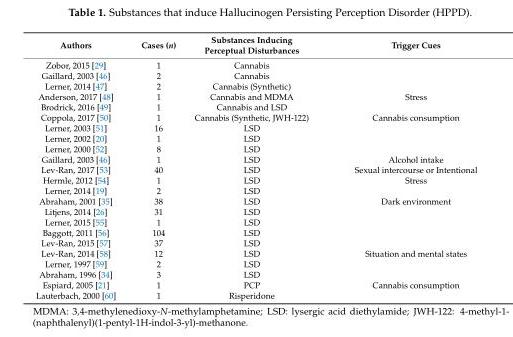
<table><thead><tr><td>Authors</td><td>Cases (n)</td><td>Substances Inducing Perceptual Disturbances</td><td>Trigger Cues</td></tr></thead><tbody><tr><td>Zobor, 2015 [29]</td><td>1</td><td>Cannabis</td><td></td></tr><tr><td>Gaillard, 2003 [46]</td><td>2</td><td>Cannabis</td><td></td></tr><tr><td>Lerner, 2014 [47]</td><td>2</td><td>Cannabis (Synthetic)</td><td></td></tr><tr><td>Anderson, 2017 [48]</td><td>1</td><td>Cannabis and MDMA</td><td>Stress</td></tr><tr><td>Brodrick, 2016 [49]</td><td>1</td><td>Cannabis and LSD</td><td></td></tr><tr><td>Coppola, 2017 [50]</td><td>1</td><td>Cannabis (Synthetic, JWH-122)</td><td>Cannabis consumption</td></tr><tr><td>Lerner, 2003 [51]</td><td>16</td><td>LSD</td><td></td></tr><tr><td>Lerner, 2002 [20]</td><td>1</td><td>LSD</td><td></td></tr><tr><td>Lerner, 2000 [52]</td><td>8</td><td>LSD</td><td></td></tr><tr><td>Gaillard, 2003 [46]</td><td>1</td><td>LSD</td><td>Alcohol intake</td></tr><tr><td>Lev-Ran, 2017 [53]</td><td>40</td><td>LSD</td><td>Sexual intercourse or Intentional</td></tr><tr><td>Hermle, 2012 [54]</td><td>1</td><td>LSD</td><td>Stress</td></tr><tr><td>Lerner, 2014 [19]</td><td>2</td><td>LSD</td><td></td></tr><tr><td>Abraham, 2001 [35]</td><td>38</td><td>LSD</td><td>Dark environment</td></tr><tr><td>Litjens, 2014 [26]</td><td>31</td><td>LSD</td><td></td></tr><tr><td>Lerner, 2015 [55]</td><td>1</td><td>LSD</td><td></td></tr><tr><td>Baggott, 2011 [56]</td><td>104</td><td>LSD</td><td></td></tr><tr><td>Lev-Ran, 2015 [57]</td><td>37</td><td>LSD</td><td></td></tr><tr><td>Lev-Ran, 2014 [58]</td><td>12</td><td>LSD</td><td>Situation and mental states</td></tr><tr><td>Lerner, 1997 [59]</td><td>2</td><td>LSD</td><td></td></tr><tr><td>Abraham, 1996 [34]</td><td>3</td><td>LSD</td><td></td></tr><tr><td>Espiard, 2005 [21]</td><td>1</td><td>PCP</td><td>Cannabis consumption</td></tr><tr><td>Lauterbach, 2000 [60]</td><td>1</td><td>Risperidone</td><td></td></tr></tbody></table>